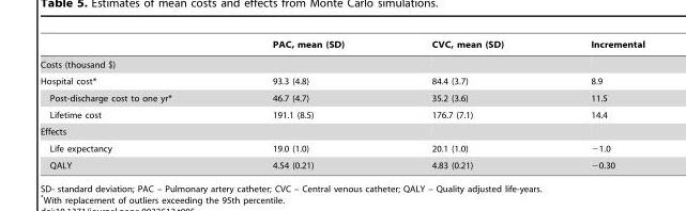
<table><thead><tr><td></td><td>PAC, mean (SD)</td><td>CVC, mean (SD)</td><td>Incremental</td></tr></thead><tbody><tr><td colspan="4">Costs (thousand $)</td></tr><tr><td>Hospital cost*</td><td>93.3 (4.8)</td><td>84.4 (3.7)</td><td>8.9</td></tr><tr><td>Post-discharge cost to one yr*</td><td>46.7 (4.7)</td><td>35.2 (3.6)</td><td>11.5</td></tr><tr><td>Lifetime cost</td><td>191.1 (8.5)</td><td>176.7 (7.1)</td><td>14.4</td></tr><tr><td colspan="4">Effects</td></tr><tr><td>Life expectancy</td><td>19.0 (1.0)</td><td>20.1 (1.0)</td><td>−1.0</td></tr><tr><td>QALY</td><td>4.54 (0.21)</td><td>4.83 (0.21)</td><td>−0.30</td></tr></tbody></table>